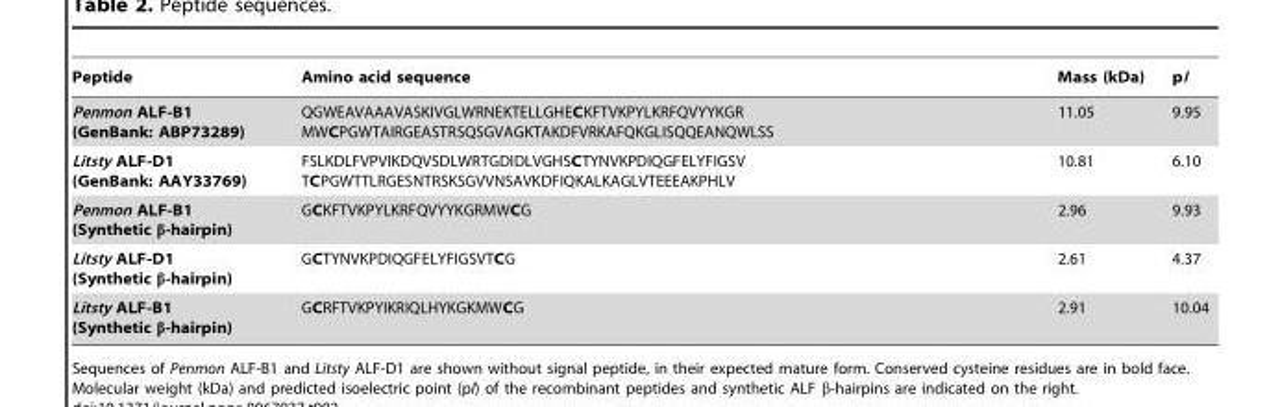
<table><thead><tr><td>Peptide</td><td>Amino acid sequence</td><td>Mass (kDa)</td><td>pI</td></tr></thead><tbody><tr><td>Penmon ALF-B1 (GenBank: ABP73289)</td><td>QGWEAVAAAVASKIVGLWRNEKTELLGHECKFTVKPYLKRFQVYYKGR MWCPGWTAIRGEASTRSQSGVAGKTAKDFVRKAFQKGLISQQEANQWLSS</td><td>11.05</td><td>9.95</td></tr><tr><td>Litsty ALF-D1 (GenBank: AAY33769)</td><td>FSLKDLFVPVIKDQVSDLWRTGDIDLVGHSCTYNVKPDIQGFELYFIGSV TCPGWTTLRGESNTRSKSGVVNSAVKDFIQKALKAGLVTEEEAKPHLV</td><td>10.81</td><td>6.10</td></tr><tr><td>Penmon ALF-B1 (Synthetic β-hairpin)</td><td>GCKFTVKPYLKRFQVYYKGRMWCG</td><td>2.96</td><td>9.93</td></tr><tr><td>Litsty ALF-D1 (Synthetic β-hairpin)</td><td>GCTYNVKPDIQGFELYFIGSVTCG</td><td>2.61</td><td>4.37</td></tr><tr><td>Litsty ALF-B1 (Synthetic β-hairpin)</td><td>GCRFTVKPYIKRIQLHYKGKMWCG</td><td>2.91</td><td>10.04</td></tr></tbody></table>